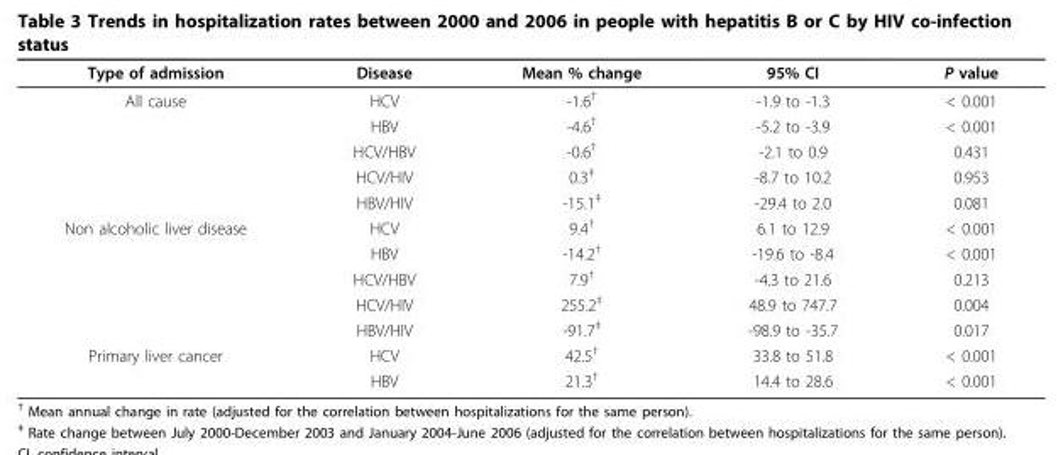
<table><thead><tr><td>Type of admission</td><td>Disease</td><td>Mean % change</td><td>95% CI</td><td>P value</td></tr></thead><tbody><tr><td rowspan="5">All cause</td><td>HCV</td><td>-1.6<sup>†</sup></td><td>-1.9 to -1.3</td><td>&lt; 0.001</td></tr><tr><td>HBV</td><td>-4.6<sup>†</sup></td><td>-5.2 to -3.9</td><td>&lt; 0.001</td></tr><tr><td>HCV/HBV</td><td>-0.6<sup>†</sup></td><td>-2.1 to 0.9</td><td>0.431</td></tr><tr><td>HCV/HIV</td><td>0.3<sup>‡</sup></td><td>-8.7 to 10.2</td><td>0.953</td></tr><tr><td>HBV/HIV</td><td>-15.1<sup>‡</sup></td><td>-29.4 to 2.0</td><td>0.081</td></tr><tr><td rowspan="5">Non alcoholic liver disease</td><td>HCV</td><td>9.4<sup>†</sup></td><td>6.1 to 12.9</td><td>&lt; 0.001</td></tr><tr><td>HBV</td><td>-14.2<sup>†</sup></td><td>-19.6 to -8.4</td><td>&lt; 0.001</td></tr><tr><td>HCV/HBV</td><td>7.9<sup>†</sup></td><td>-4.3 to 21.6</td><td>0.213</td></tr><tr><td>HCV/HIV</td><td>255.2<sup>‡</sup></td><td>48.9 to 747.7</td><td>0.004</td></tr><tr><td>HBV/HIV</td><td>-91.7<sup>‡</sup></td><td>-98.9 to -35.7</td><td>0.017</td></tr><tr><td rowspan="2">Primary liver cancer</td><td>HCV</td><td>42.5<sup>†</sup></td><td>33.8 to 51.8</td><td>&lt; 0.001</td></tr><tr><td>HBV</td><td>21.3<sup>†</sup></td><td>14.4 to 28.6</td><td>&lt; 0.001</td></tr></tbody></table>